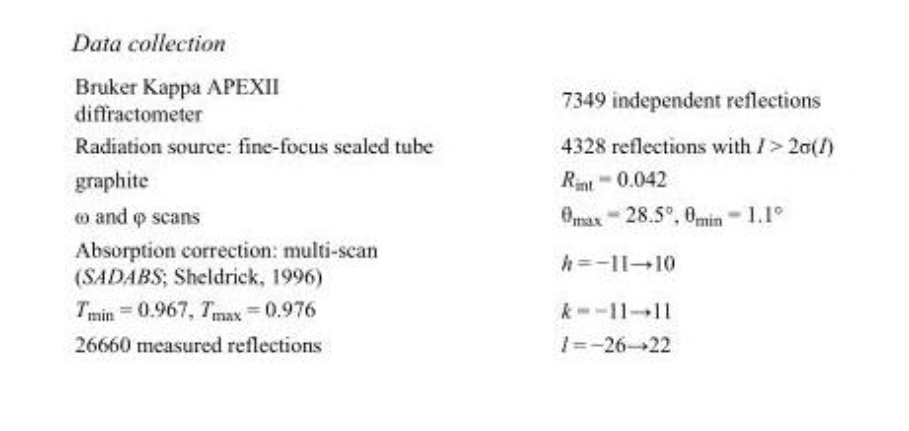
<table><tbody><tr><td>Bruker Kappa APEXII diffractometer</td><td>7349 independent reflections</td></tr><tr><td>Radiation source: fine-focus sealed tube</td><td>4328 reflections with I &gt; 2σ(I)</td></tr><tr><td>graphite</td><td>R<sub>int</sub> = 0.042</td></tr><tr><td>ω and φ scans</td><td>θ<sub>max</sub> = 28.5°, θ<sub>min</sub> = 1.1°</td></tr><tr><td>Absorption correction: multi-scan (SADABS; Sheldrick, 1996)</td><td>h = −11→10</td></tr><tr><td>T<sub>min</sub> = 0.967, T<sub>max</sub> = 0.976</td><td>k = −11→11</td></tr><tr><td>26660 measured reflections</td><td>l = −26→22</td></tr></tbody></table>